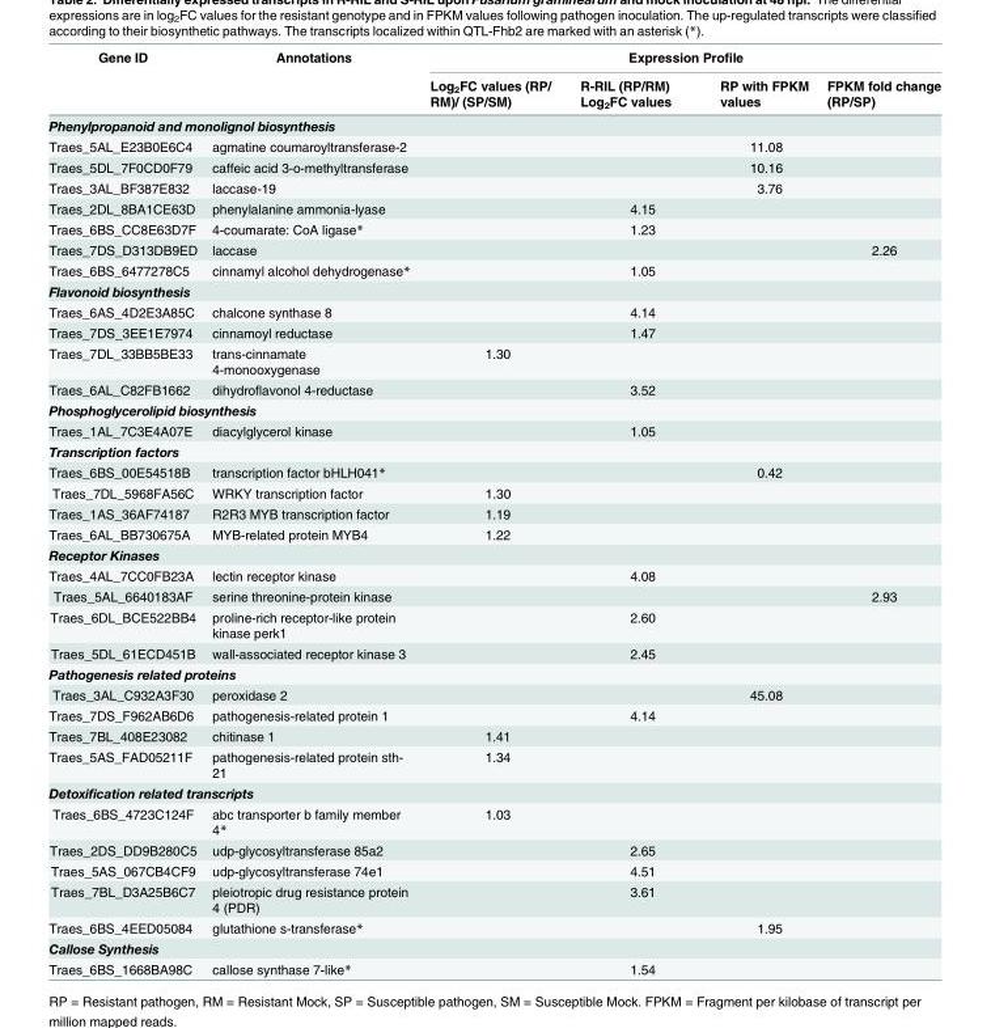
<table><thead><tr><td rowspan="2">Gene ID</td><td rowspan="2">Annotations</td><td colspan="4">Expression Profile</td></tr><tr><td>Log<sub>2</sub>FC values (RP/ RM)/ (SP/SM)</td><td>R-RIL (RP/RM) Log<sub>2</sub>FC values</td><td>RP with FPKM values</td><td>FPKM fold change (RP/SP)</td></tr></thead><tbody><tr><td colspan="6">Phenylpropanoid and monolignol biosynthesis</td></tr><tr><td>Traes_5AL_E23B0E6C4</td><td>agmatine coumaroyltransferase-2</td><td></td><td></td><td>11.08</td><td></td></tr><tr><td>Traes_5DL_7F0CD0F79</td><td>caffeic acid 3-o-methyltransferase</td><td></td><td></td><td>10.16</td><td></td></tr><tr><td>Traes_3AL_BF387E832</td><td>laccase-19</td><td></td><td></td><td>3.76</td><td></td></tr><tr><td>Traes_2DL_8BA1CE63D</td><td>phenylalanine ammonia-lyase</td><td></td><td>4.15</td><td></td><td></td></tr><tr><td>Traes_6BS_CC8E63D7F</td><td>4-coumarate: CoA ligase*</td><td></td><td>1.23</td><td></td><td></td></tr><tr><td>Traes_7DS_D313DB9ED</td><td>laccase</td><td></td><td></td><td></td><td>2.26</td></tr><tr><td>Traes_6BS_6477278C5</td><td>cinnamyl alcohol dehydrogenase*</td><td></td><td>1.05</td><td></td><td></td></tr><tr><td colspan="6">Flavonoid biosynthesis</td></tr><tr><td>Traes_6AS_4D2E3A85C</td><td>chalcone synthase 8</td><td></td><td>4.14</td><td></td><td></td></tr><tr><td>Traes_7DS_3EE1E7974</td><td>cinnamoyl reductase</td><td></td><td>1.47</td><td></td><td></td></tr><tr><td>Traes_7DL_33BB5BE33</td><td>trans-cinnamate 4-monooxygenase</td><td>1.30</td><td></td><td></td><td></td></tr><tr><td>Traes_6AL_C82FB1662</td><td>dihydroflavonol 4-reductase</td><td></td><td>3.52</td><td></td><td></td></tr><tr><td colspan="6">Phosphoglycerolipid biosynthesis</td></tr><tr><td>Traes_1AL_7C3E4A07E</td><td>diacylglycerol kinase</td><td></td><td>1.05</td><td></td><td></td></tr><tr><td colspan="6">Transcription factors</td></tr><tr><td>Traes_6BS_00E54518B</td><td>transcription factor bHLH041*</td><td></td><td></td><td>0.42</td><td></td></tr><tr><td>Traes_7DL_5968FA56C</td><td>WRKY transcription factor</td><td>1.30</td><td></td><td></td><td></td></tr><tr><td>Traes_1AS_36AF74187</td><td>R2R3 MYB transcription factor</td><td>1.19</td><td></td><td></td><td></td></tr><tr><td>Traes_6AL_BB730675A</td><td>MYB-related protein MYB4</td><td>1.22</td><td></td><td></td><td></td></tr><tr><td colspan="6">Receptor Kinases</td></tr><tr><td>Traes_4AL_7CC0FB23A</td><td>lectin receptor kinase</td><td></td><td>4.08</td><td></td><td></td></tr><tr><td>Traes_5AL_6640183AF</td><td>serine threonine-protein kinase</td><td></td><td></td><td></td><td>2.93</td></tr><tr><td>Traes_6DL_BCE522BB4</td><td>proline-rich receptor-like protein kinase perk1</td><td></td><td>2.60</td><td></td><td></td></tr><tr><td>Traes_5DL_61ECD451B</td><td>wall-associated receptor kinase 3</td><td></td><td>2.45</td><td></td><td></td></tr><tr><td colspan="6">Pathogenesis related proteins</td></tr><tr><td>Traes_3AL_C932A3F30</td><td>peroxidase 2</td><td></td><td></td><td>45.08</td><td></td></tr><tr><td>Traes_7DS_F962AB6D6</td><td>pathogenesis-related protein 1</td><td></td><td>4.14</td><td></td><td></td></tr><tr><td>Traes_7BL_408E23082</td><td>chitinase 1</td><td>1.41</td><td></td><td></td><td></td></tr><tr><td>Traes_5AS_FAD05211F</td><td>pathogenesis-related protein sth- 21</td><td>1.34</td><td></td><td></td><td></td></tr><tr><td colspan="6">Detoxification related transcripts</td></tr><tr><td>Traes_6BS_4723C124F</td><td>abc transporter b family member 4*</td><td>1.03</td><td></td><td></td><td></td></tr><tr><td>Traes_2DS_DD9B280C5</td><td>udp-glycosyltransferase 85a2</td><td></td><td>2.65</td><td></td><td></td></tr><tr><td>Traes_5AS_067CB4CF9</td><td>udp-glycosyltransferase 74e1</td><td></td><td>4.51</td><td></td><td></td></tr><tr><td>Traes_7BL_D3A25B6C7</td><td>pleiotropic drug resistance protein 4 (PDR)</td><td></td><td>3.61</td><td></td><td></td></tr><tr><td>Traes_6BS_4EED05084</td><td>glutathione s-transferase*</td><td></td><td></td><td>1.95</td><td></td></tr><tr><td colspan="6">Callose Synthesis</td></tr><tr><td>Traes_6BS_1668BA98C</td><td>callose synthase 7-like*</td><td></td><td>1.54</td><td></td><td></td></tr></tbody></table>